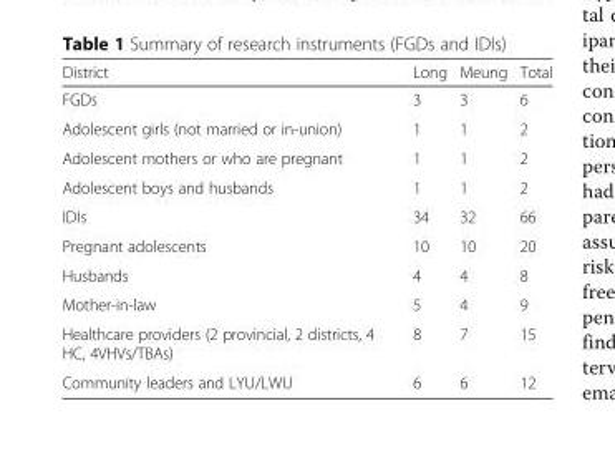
<table><thead><tr><td>District</td><td>Long</td><td>Meung</td><td>Total</td></tr></thead><tbody><tr><td>FGDs</td><td>3</td><td>3</td><td>6</td></tr><tr><td>Adolescent girls (not married or in-union)</td><td>1</td><td>1</td><td>2</td></tr><tr><td>Adolescent mothers or who are pregnant</td><td>1</td><td>1</td><td>2</td></tr><tr><td>Adolescent boys and husbands</td><td>1</td><td>1</td><td>2</td></tr><tr><td>IDIs</td><td>34</td><td>32</td><td>66</td></tr><tr><td>Pregnant adolescents</td><td>10</td><td>10</td><td>20</td></tr><tr><td>Husbands</td><td>4</td><td>4</td><td>8</td></tr><tr><td>Mother-in-law</td><td>5</td><td>4</td><td>9</td></tr><tr><td>Healthcare providers (2 provincial, 2 districts, 4 HC, 4VHVs/TBAs)</td><td>8</td><td>7</td><td>15</td></tr><tr><td>Community leaders and LYU/LWU</td><td>6</td><td>6</td><td>12</td></tr></tbody></table>